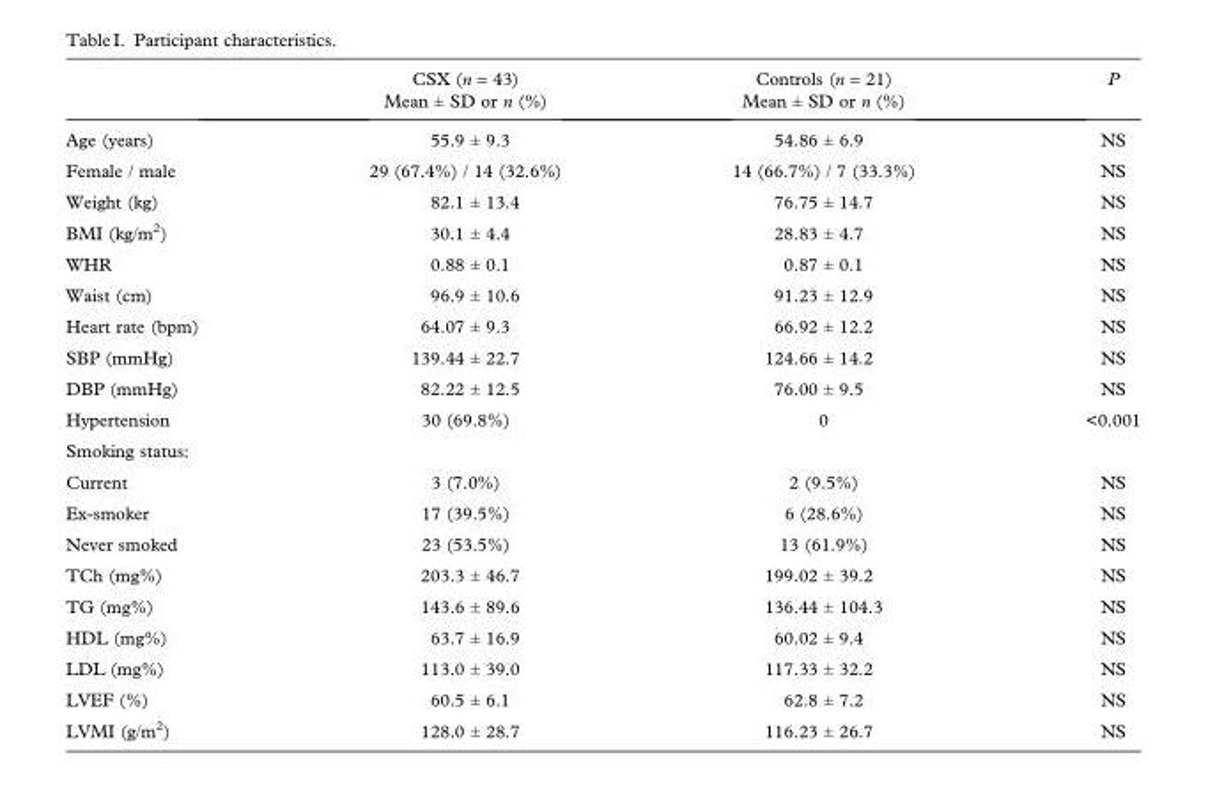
<table><thead><tr><td rowspan="2"></td><td rowspan="2">CSX (n = 43) Mean ± SD or n (%)</td><td rowspan="2">Controls (n = 21) Mean ± SD or n (%)</td><td rowspan="2">P</td></tr><tr></tr></thead><tbody><tr><td>Age (years)</td><td>55.9 ± 9.3</td><td>54.86 ± 6.9</td><td>NS</td></tr><tr><td>Female / male</td><td>29 (67.4%) / 14 (32.6%)</td><td>14 (66.7%) / 7 (33.3%)</td><td>NS</td></tr><tr><td>Weight (kg)</td><td>82.1 ± 13.4</td><td>76.75 ± 14.7</td><td>NS</td></tr><tr><td>BMI (kg/m<sup>2</sup>)</td><td>30.1 ± 4.4</td><td>28.83 ± 4.7</td><td>NS</td></tr><tr><td>WHR</td><td>0.88 ± 0.1</td><td>0.87 ± 0.1</td><td>NS</td></tr><tr><td>Waist (cm)</td><td>96.9 ± 10.6</td><td>91.23 ± 12.9</td><td>NS</td></tr><tr><td>Heart rate (bpm)</td><td>64.07 ± 9.3</td><td>66.92 ± 12.2</td><td>NS</td></tr><tr><td>SBP (mmHg)</td><td>139.44 ± 22.7</td><td>124.66 ± 14.2</td><td>NS</td></tr><tr><td>DBP (mmHg)</td><td>82.22 ± 12.5</td><td>76.00 ± 9.5</td><td>NS</td></tr><tr><td>Hypertension</td><td>30 (69.8%)</td><td>0</td><td>&lt;0.001</td></tr><tr><td colspan="4">Smoking status:</td></tr><tr><td>Current</td><td>3 (7.0%)</td><td>2 (9.5%)</td><td>NS</td></tr><tr><td>Ex-smoker</td><td>17 (39.5%)</td><td>6 (28.6%)</td><td>NS</td></tr><tr><td>Never smoked</td><td>23 (53.5%)</td><td>13 (61.9%)</td><td>NS</td></tr><tr><td>TCh (mg%)</td><td>203.3 ± 46.7</td><td>199.02 ± 39.2</td><td>NS</td></tr><tr><td>TG (mg%)</td><td>143.6 ± 89.6</td><td>136.44 ± 104.3</td><td>NS</td></tr><tr><td>HDL (mg%)</td><td>63.7 ± 16.9</td><td>60.02 ± 9.4</td><td>NS</td></tr><tr><td>LDL (mg%)</td><td>113.0 ± 39.0</td><td>117.33 ± 32.2</td><td>NS</td></tr><tr><td>LVEF (%)</td><td>60.5 ± 6.1</td><td>62.8 ± 7.2</td><td>NS</td></tr><tr><td>LVMI (g/m<sup>2</sup>)</td><td>128.0 ± 28.7</td><td>116.23 ± 26.7</td><td>NS</td></tr></tbody></table>